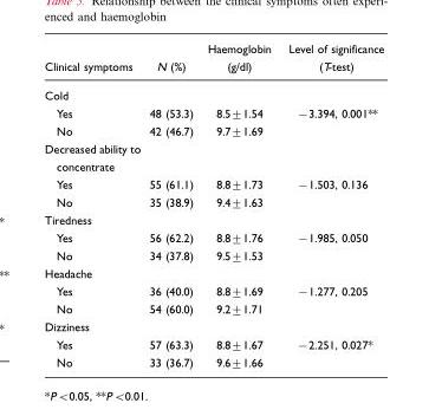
<table><thead><tr><td>Clinical symptoms</td><td>N (%)</td><td>Haemoglobin (g/dl)</td><td>Level of significance (T-test)</td></tr></thead><tbody><tr><td colspan="4">Cold</td></tr><tr><td>Yes</td><td>48 (53.3)</td><td>8.5±1.54</td><td>−3.394, 0.001**</td></tr><tr><td>No</td><td>42 (46.7)</td><td>9.7±1.69</td><td></td></tr><tr><td colspan="4">Decreased ability to concentrate</td></tr><tr><td>Yes</td><td>55 (61.1)</td><td>8.8±1.73</td><td>−1.503, 0.136</td></tr><tr><td>No</td><td>35 (38.9)</td><td>9.4±1.63</td><td></td></tr><tr><td colspan="4">Tiredness</td></tr><tr><td>Yes</td><td>56 (62.2)</td><td>8.8±1.76</td><td>−1.985, 0.050</td></tr><tr><td>No</td><td>34 (37.8)</td><td>9.5±1.53</td><td></td></tr><tr><td colspan="4">Headache</td></tr><tr><td>Yes</td><td>36 (40.0)</td><td>8.8±1.69</td><td>−1.277, 0.205</td></tr><tr><td>No</td><td>54 (60.0)</td><td>9.2±1.71</td><td></td></tr><tr><td colspan="4">Dizziness</td></tr><tr><td>Yes</td><td>57 (63.3)</td><td>8.8±1.67</td><td>−2.251, 0.027*</td></tr><tr><td>No</td><td>33 (36.7)</td><td>9.6±1.66</td><td></td></tr></tbody></table>